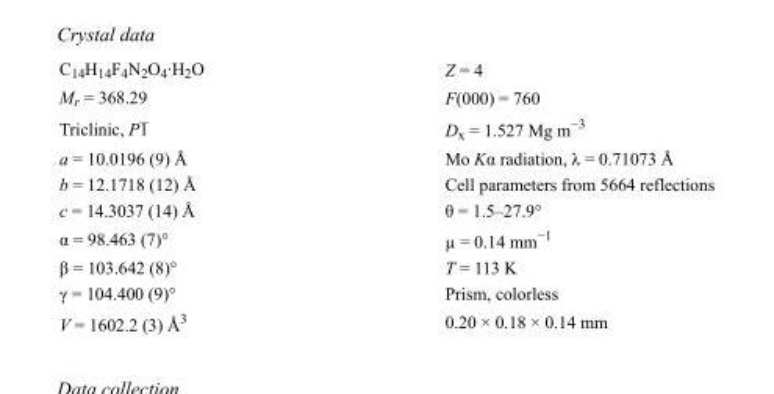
<table><tbody><tr><td>C<sub>14</sub>H<sub>14</sub>F<sub>4</sub>N<sub>2</sub>O<sub>4</sub>·H<sub>2</sub>O</td><td>Z = 4</td></tr><tr><td>M<sub>r</sub> = 368.29</td><td>F(000) = 760</td></tr><tr><td>Triclinic, P1</td><td>D<sub>x</sub> = 1.527 Mg m<sup>−3</sup></td></tr><tr><td>a = 10.0196 (9) Å</td><td>Mo Kα radiation, λ = 0.71073 Å</td></tr><tr><td>b = 12.1718 (12) Å</td><td>Cell parameters from 5664 reflections</td></tr><tr><td>c = 14.3037 (14) Å</td><td>θ = 1.5–27.9°</td></tr><tr><td>α = 98.463 (7)°</td><td>µ = 0.14 mm<sup>−1</sup></td></tr><tr><td>β = 103.642 (8)°</td><td>T = 113 K</td></tr><tr><td>γ = 104.400 (9)°</td><td>Prism, colorless</td></tr><tr><td>V = 1602.2 (3) Å<sup>3</sup></td><td>0.20 × 0.18 × 0.14 mm</td></tr></tbody></table>